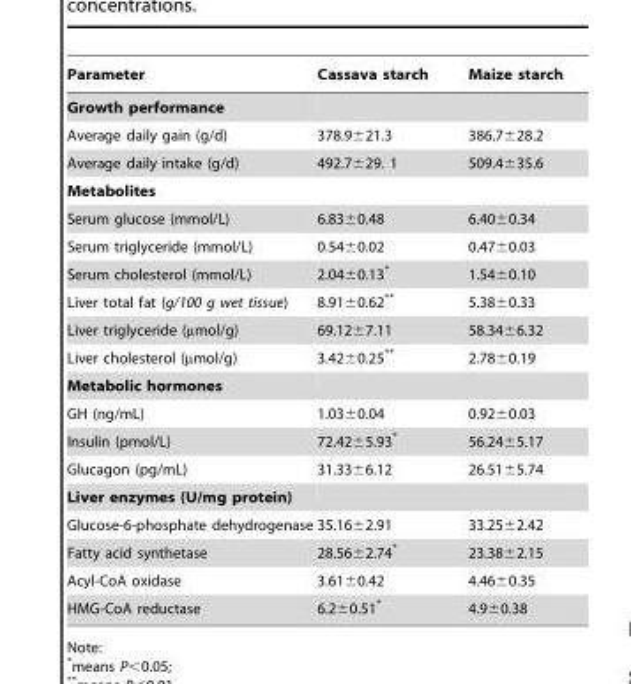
<table><thead><tr><td>Parameter</td><td>Cassava starch</td><td>Maize starch</td></tr></thead><tbody><tr><td colspan="3">Growth performance</td></tr><tr><td>Average daily gain (g/d)</td><td>378.9±21.3</td><td>386.7±28.2</td></tr><tr><td>Average daily intake (g/d)</td><td>492.7±29. 1</td><td>509.4±35.6</td></tr><tr><td colspan="3">Metabolites</td></tr><tr><td>Serum glucose (mmol/L)</td><td>6.83±0.48</td><td>6.40±0.34</td></tr><tr><td>Serum triglyceride (mmol/L)</td><td>0.54±0.02</td><td>0.47±0.03</td></tr><tr><td>Serum cholesterol (mmol/L)</td><td>2.04±0.13*</td><td>1.54±0.10</td></tr><tr><td>Liver total fat (g/100 g wet tissue)</td><td>8.91±0.62**</td><td>5.38±0.33</td></tr><tr><td>Liver triglyceride (µmol/g)</td><td>69.12±7.11</td><td>58.34±6.32</td></tr><tr><td>Liver cholesterol (µmol/g)</td><td>3.42±0.25**</td><td>2.78±0.19</td></tr><tr><td colspan="3">Metabolic hormones</td></tr><tr><td>GH (ng/mL)</td><td>1.03±0.04</td><td>0.92±0.03</td></tr><tr><td>Insulin (pmol/L)</td><td>72.42±5.93*</td><td>56.24±5.17</td></tr><tr><td>Glucagon (pg/mL)</td><td>31.33±6.12</td><td>26.51±5.74</td></tr><tr><td colspan="3">Liver enzymes (U/mg protein)</td></tr><tr><td>Glucose-6-phosphate dehydrogenase</td><td>35.16±2.91</td><td>33.25±2.42</td></tr><tr><td>Fatty acid synthetase</td><td>28.56±2.74*</td><td>23.38±2.15</td></tr><tr><td>Acyl-CoA oxidase</td><td>3.61±0.42</td><td>4.46±0.35</td></tr><tr><td>HMG-CoA reductase</td><td>6.2±0.51*</td><td>4.9±0.38</td></tr></tbody></table>